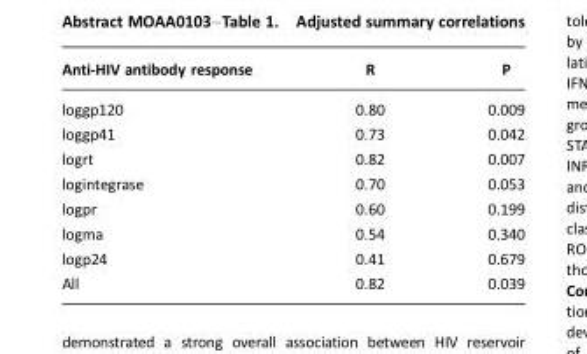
<table><thead><tr><td>Anti-HIV antibody response</td><td>R</td><td>P</td></tr></thead><tbody><tr><td>loggp120</td><td>0.80</td><td>0.009</td></tr><tr><td>loggp41</td><td>0.73</td><td>0.042</td></tr><tr><td>logrt</td><td>0.82</td><td>0.007</td></tr><tr><td>logintegrase</td><td>0.70</td><td>0.053</td></tr><tr><td>logpr</td><td>0.60</td><td>0.199</td></tr><tr><td>logma</td><td>0.54</td><td>0.340</td></tr><tr><td>logp24</td><td>0.41</td><td>0.679</td></tr><tr><td>All</td><td>0.82</td><td>0.039</td></tr></tbody></table>